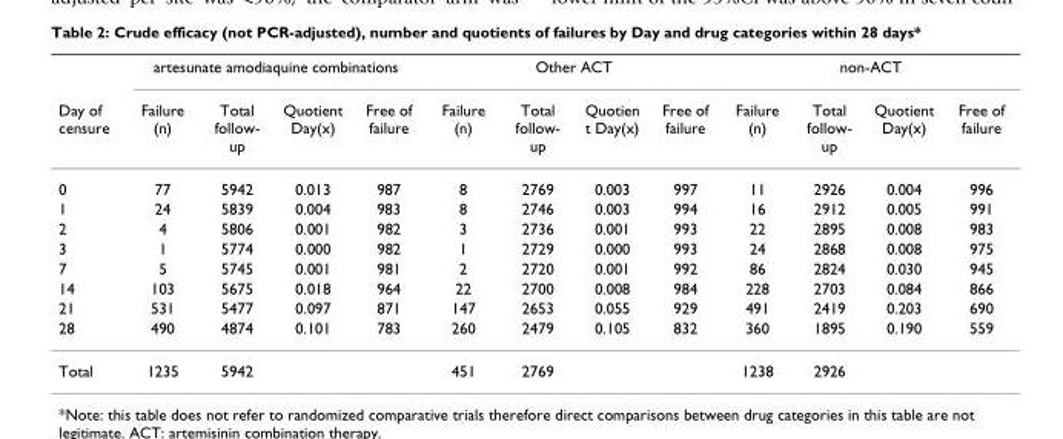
<table><thead><tr><td rowspan="2">Day of censure</td><td colspan="4">artesunate amodiaquine combinations</td><td colspan="4">Other ACT</td><td colspan="4">non-ACT</td></tr><tr><td>Failure (n)</td><td>Total follow- up</td><td>Quotient Day(x)</td><td>Free of failure</td><td>Failure (n)</td><td>Total follow- up</td><td>Quotien t Day(x)</td><td>Free of failure</td><td>Failure (n)</td><td>Total follow- up</td><td>Quotient Day(x)</td><td>Free of failure</td></tr></thead><tbody><tr><td>0</td><td>77</td><td>5942</td><td>0.013</td><td>987</td><td>8</td><td>2769</td><td>0.003</td><td>997</td><td>11</td><td>2926</td><td>0.004</td><td>996</td></tr><tr><td>1</td><td>24</td><td>5839</td><td>0.004</td><td>983</td><td>8</td><td>2746</td><td>0.003</td><td>994</td><td>16</td><td>2912</td><td>0.005</td><td>991</td></tr><tr><td>2</td><td>4</td><td>5806</td><td>0.001</td><td>982</td><td>3</td><td>2736</td><td>0.001</td><td>993</td><td>22</td><td>2895</td><td>0.008</td><td>983</td></tr><tr><td>3</td><td>1</td><td>5774</td><td>0.000</td><td>982</td><td>1</td><td>2729</td><td>0.000</td><td>993</td><td>24</td><td>2868</td><td>0.008</td><td>975</td></tr><tr><td>7</td><td>5</td><td>5745</td><td>0.001</td><td>981</td><td>2</td><td>2720</td><td>0.001</td><td>992</td><td>86</td><td>2824</td><td>0.030</td><td>945</td></tr><tr><td>14</td><td>103</td><td>5675</td><td>0.018</td><td>964</td><td>22</td><td>2700</td><td>0.008</td><td>984</td><td>228</td><td>2703</td><td>0.084</td><td>866</td></tr><tr><td>21</td><td>531</td><td>5477</td><td>0.097</td><td>871</td><td>147</td><td>2653</td><td>0.055</td><td>929</td><td>491</td><td>2419</td><td>0.203</td><td>690</td></tr><tr><td>28</td><td>490</td><td>4874</td><td>0.101</td><td>783</td><td>260</td><td>2479</td><td>0.105</td><td>832</td><td>360</td><td>1895</td><td>0.190</td><td>559</td></tr><tr><td>Total</td><td>1235</td><td>5942</td><td></td><td></td><td>451</td><td>2769</td><td></td><td></td><td>1238</td><td>2926</td><td></td><td></td></tr></tbody></table>